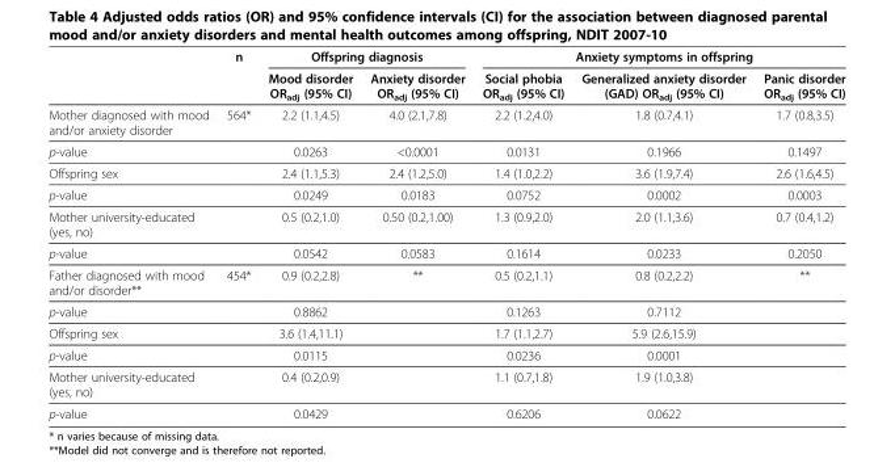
<table><thead><tr><td rowspan="2"></td><td rowspan="2">n</td><td colspan="2">Offspring diagnosis</td><td colspan="3">Anxiety symptoms in offspring</td></tr><tr><td>Mood disorder OR<sub>adj</sub> (95% CI)</td><td>Anxiety disorder OR<sub>adj</sub> (95% CI)</td><td>Social phobia OR<sub>adj</sub> (95% CI)</td><td>Generalized anxiety disorder (GAD) OR<sub>adj</sub> (95% CI)</td><td>Panic disorder OR<sub>adj</sub> (95% CI)</td></tr></thead><tbody><tr><td>Mother diagnosed with mood and/or anxiety disorder</td><td>564*</td><td>2.2 (1.1,4.5)</td><td>4.0 (2.1,7.8)</td><td>2.2 (1.2,4.0)</td><td>1.8 (0.7,4.1)</td><td>1.7 (0.8,3.5)</td></tr><tr><td>p-value</td><td></td><td>0.0263</td><td>&lt;0.0001</td><td>0.0131</td><td>0.1966</td><td>0.1497</td></tr><tr><td>Offspring sex</td><td></td><td>2.4 (1.1,5.3)</td><td>2.4 (1.2,5.0)</td><td>1.4 (1.0,2.2)</td><td>3.6 (1.9,7.4)</td><td>2.6 (1.6,4.5)</td></tr><tr><td>p-value</td><td></td><td>0.0249</td><td>0.0183</td><td>0.0752</td><td>0.0002</td><td>0.0003</td></tr><tr><td>Mother university-educated (yes, no)</td><td></td><td>0.5 (0.2,1.0)</td><td>0.50 (0.2,1.00)</td><td>1.3 (0.9,2.0)</td><td>2.0 (1.1,3.6)</td><td>0.7 (0.4,1.2)</td></tr><tr><td>p-value</td><td></td><td>0.0542</td><td>0.0583</td><td>0.1614</td><td>0.0233</td><td>0.2050</td></tr><tr><td>Father diagnosed with mood and/or disorder**</td><td>454*</td><td>0.9 (0.2,2.8)</td><td>**</td><td>0.5 (0.2,1.1)</td><td>0.8 (0.2,2.2)</td><td>**</td></tr><tr><td>p-value</td><td></td><td>0.8862</td><td></td><td>0.1263</td><td>0.7112</td><td></td></tr><tr><td>Offspring sex</td><td></td><td>3.6 (1.4,11.1)</td><td></td><td>1.7 (1.1,2.7)</td><td>5.9 (2.6,15.9)</td><td></td></tr><tr><td>p-value</td><td></td><td>0.0115</td><td></td><td>0.0236</td><td>0.0001</td><td></td></tr><tr><td>Mother university-educated (yes, no)</td><td></td><td>0.4 (0.2,0.9)</td><td></td><td>1.1 (0.7,1.8)</td><td>1.9 (1.0,3.8)</td><td></td></tr><tr><td>p-value</td><td></td><td>0.0429</td><td></td><td>0.6206</td><td>0.0622</td><td></td></tr></tbody></table>